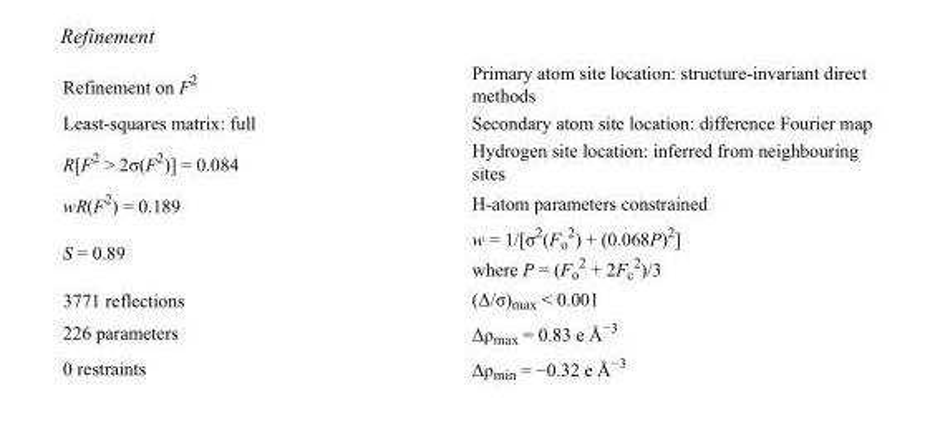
<table><tbody><tr><td>Refinement on F<sup>2</sup></td><td>Primary atom site location: structure-invariant direct methods</td></tr><tr><td>Least-squares matrix: full</td><td>Secondary atom site location: difference Fourier map</td></tr><tr><td>R[F<sup>2</sup> &gt; 2σ(F<sup>2</sup>)] = 0.084</td><td>Hydrogen site location: inferred from neighbouring sites</td></tr><tr><td>wR(F<sup>2</sup>) = 0.189</td><td>H-atom parameters constrained</td></tr><tr><td>S = 0.89</td><td>w = 1/[σ<sup>2</sup>(F<sub>o</sub> <sup>2</sup>) + (0.068P)<sup>2</sup>] where P = (F<sub>o</sub> <sup>2</sup> + 2F<sub>c</sub> <sup>2</sup>)/3</td></tr><tr><td>3771 reflections</td><td>(Δ/σ)<sub>max</sub> &lt; 0.001</td></tr><tr><td>226 parameters</td><td>Δρ<sub>max</sub> = 0.83 e Å<sup>−3</sup></td></tr><tr><td>0 restraints</td><td>Δρ<sub>min</sub> = −0.32 e Å<sup>−3</sup></td></tr></tbody></table>